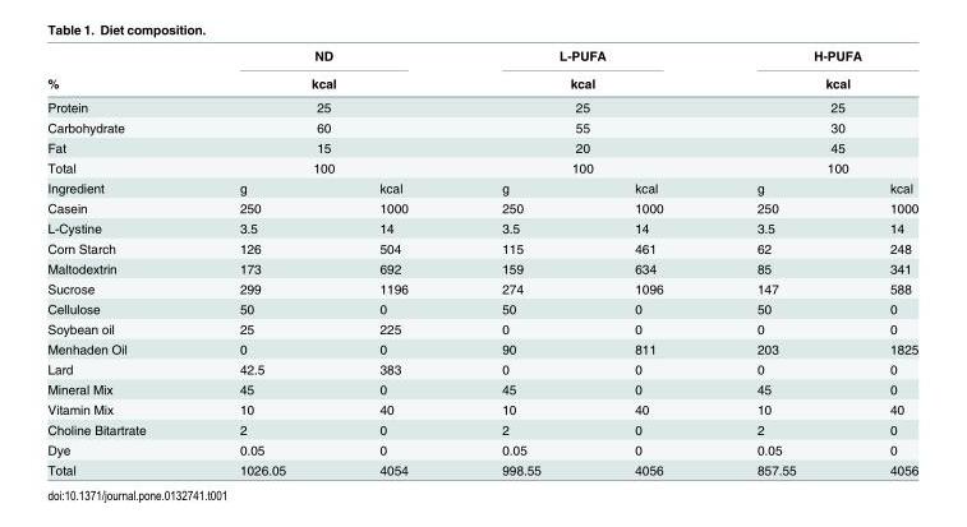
<table><thead><tr><td rowspan="2">%</td><td rowspan="2" colspan="2">ND kcal</td><td rowspan="2" colspan="2">L-PUFA kcal</td><td rowspan="2" colspan="2">H-PUFA kcal</td></tr><tr></tr></thead><tbody><tr><td>Protein</td><td colspan="2">25</td><td colspan="2">25</td><td colspan="2">25</td></tr><tr><td>Carbohydrate</td><td colspan="2">60</td><td colspan="2">55</td><td colspan="2">30</td></tr><tr><td>Fat</td><td colspan="2">15</td><td colspan="2">20</td><td colspan="2">45</td></tr><tr><td>Total</td><td colspan="2">100</td><td colspan="2">100</td><td colspan="2">100</td></tr><tr><td>Ingredient</td><td>g</td><td>kcal</td><td>g</td><td>kcal</td><td>g</td><td>kcal</td></tr><tr><td>Casein</td><td>250</td><td>1000</td><td>250</td><td>1000</td><td>250</td><td>1000</td></tr><tr><td>L-Cystine</td><td>3.5</td><td>14</td><td>3.5</td><td>14</td><td>3.5</td><td>14</td></tr><tr><td>Corn Starch</td><td>126</td><td>504</td><td>115</td><td>461</td><td>62</td><td>248</td></tr><tr><td>Maltodextrin</td><td>173</td><td>692</td><td>159</td><td>634</td><td>85</td><td>341</td></tr><tr><td>Sucrose</td><td>299</td><td>1196</td><td>274</td><td>1096</td><td>147</td><td>588</td></tr><tr><td>Cellulose</td><td>50</td><td>0</td><td>50</td><td>0</td><td>50</td><td>0</td></tr><tr><td>Soybean oil</td><td>25</td><td>225</td><td>0</td><td>0</td><td>0</td><td>0</td></tr><tr><td>Menhaden Oil</td><td>0</td><td>0</td><td>90</td><td>811</td><td>203</td><td>1825</td></tr><tr><td>Lard</td><td>42.5</td><td>383</td><td>0</td><td>0</td><td>0</td><td>0</td></tr><tr><td>Mineral Mix</td><td>45</td><td>0</td><td>45</td><td>0</td><td>45</td><td>0</td></tr><tr><td>Vitamin Mix</td><td>10</td><td>40</td><td>10</td><td>40</td><td>10</td><td>40</td></tr><tr><td>Choline Bitartrate</td><td>2</td><td>0</td><td>2</td><td>0</td><td>2</td><td>0</td></tr><tr><td>Dye</td><td>0.05</td><td>0</td><td>0.05</td><td>0</td><td>0.05</td><td>0</td></tr><tr><td>Total</td><td>1026.05</td><td>4054</td><td>998.55</td><td>4056</td><td>857.55</td><td>4056</td></tr></tbody></table>